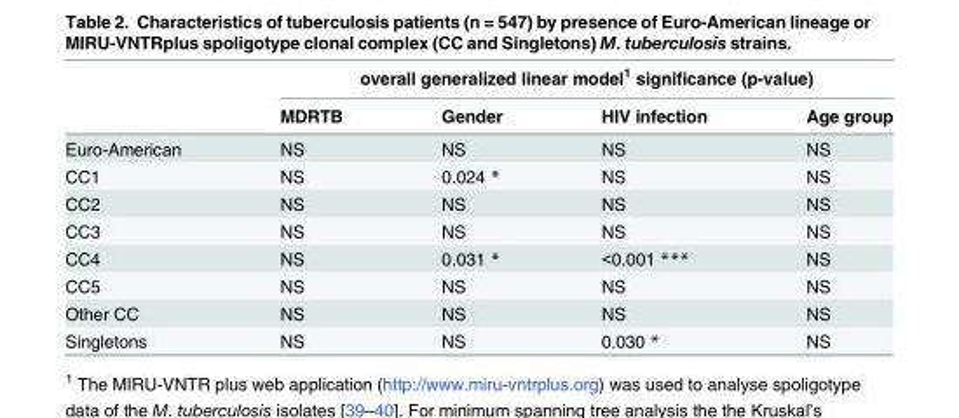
<table><thead><tr><td rowspan="2"></td><td colspan="4">overall generalized linear model<sup>1</sup> significance (p-value)</td></tr><tr><td>MDRTB</td><td>Gender</td><td>HIV infection</td><td>Age group</td></tr></thead><tbody><tr><td>Euro-American</td><td>NS</td><td>NS</td><td>NS</td><td>NS</td></tr><tr><td>CC1</td><td>NS</td><td>0.024 *</td><td>NS</td><td>NS</td></tr><tr><td>CC2</td><td>NS</td><td>NS</td><td>NS</td><td>NS</td></tr><tr><td>CC3</td><td>NS</td><td>NS</td><td>NS</td><td>NS</td></tr><tr><td>CC4</td><td>NS</td><td>0.031 *</td><td>&lt;0.001 ***</td><td>NS</td></tr><tr><td>CC5</td><td>NS</td><td>NS</td><td>NS</td><td>NS</td></tr><tr><td>Other CC</td><td>NS</td><td>NS</td><td>NS</td><td>NS</td></tr><tr><td>Singletons</td><td>NS</td><td>NS</td><td>0.030 *</td><td>NS</td></tr></tbody></table>